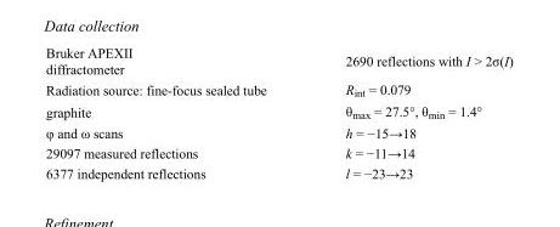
<table><tbody><tr><td>Bruker APEXII diffractometer</td><td>2690 reflections with I &gt; 2σ(I)</td></tr><tr><td>Radiation source: fine-focus sealed tube</td><td>R<sub>int</sub> = 0.079</td></tr><tr><td>graphite</td><td>θ<sub>max</sub> = 27.5°, θ<sub>min</sub> = 1.4°</td></tr><tr><td>φ and ω scans</td><td>h = −15→18</td></tr><tr><td>29097 measured reflections</td><td>k = −11→14</td></tr><tr><td>6377 independent reflections</td><td>l = −23→23</td></tr></tbody></table>